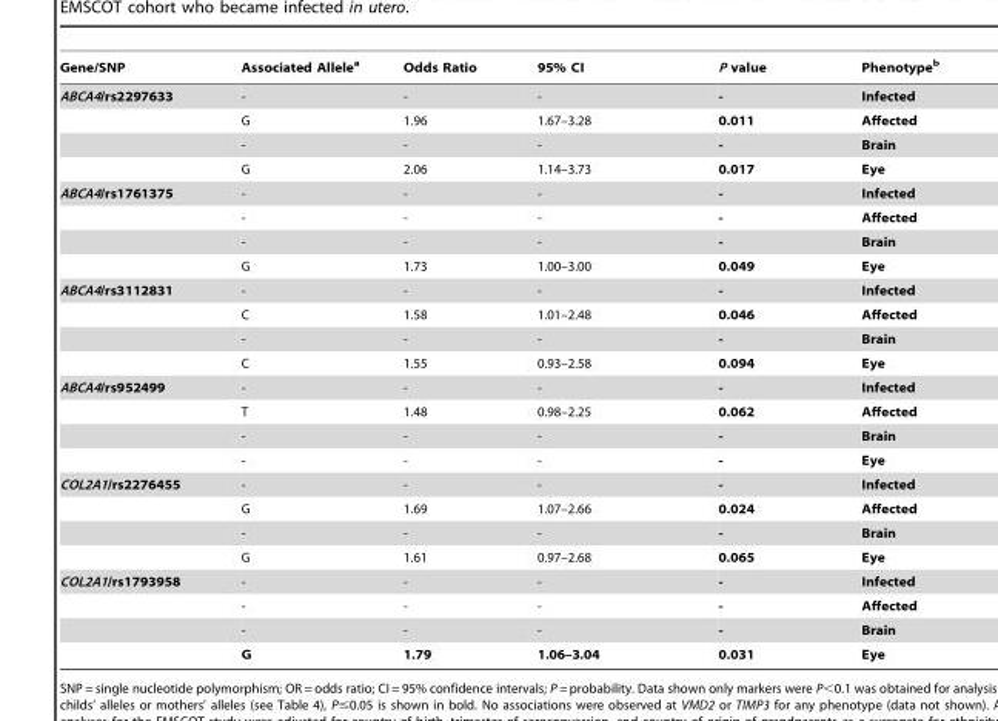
<table><thead><tr><td>Gene/SNP</td><td>Associated Allele<sup>a</sup></td><td>Odds Ratio</td><td>95% CI</td><td>P value</td><td>Phenotype<sup>b</sup></td></tr></thead><tbody><tr><td rowspan="4">ABCA4/rs2297633</td><td>-</td><td>-</td><td>-</td><td>-</td><td>Infected</td></tr><tr><td>G</td><td>1.96</td><td>1.67–3.28</td><td>0.011</td><td>Affected</td></tr><tr><td>-</td><td>-</td><td>-</td><td>-</td><td>Brain</td></tr><tr><td>G</td><td>2.06</td><td>1.14–3.73</td><td>0.017</td><td>Eye</td></tr><tr><td rowspan="4">ABCA4/rs1761375</td><td>-</td><td>-</td><td>-</td><td>-</td><td>Infected</td></tr><tr><td>-</td><td>-</td><td>-</td><td>-</td><td>Affected</td></tr><tr><td>-</td><td>-</td><td>-</td><td>-</td><td>Brain</td></tr><tr><td>G</td><td>1.73</td><td>1.00–3.00</td><td>0.049</td><td>Eye</td></tr><tr><td rowspan="4">ABCA4/rs3112831</td><td>-</td><td>-</td><td>-</td><td>-</td><td>Infected</td></tr><tr><td>C</td><td>1.58</td><td>1.01–2.48</td><td>0.046</td><td>Affected</td></tr><tr><td>-</td><td>-</td><td>-</td><td>-</td><td>Brain</td></tr><tr><td>C</td><td>1.55</td><td>0.93–2.58</td><td>0.094</td><td>Eye</td></tr><tr><td rowspan="4">ABCA4/rs952499</td><td>-</td><td>-</td><td>-</td><td>-</td><td>Infected</td></tr><tr><td>T</td><td>1.48</td><td>0.98–2.25</td><td>0.062</td><td>Affected</td></tr><tr><td>-</td><td>-</td><td>-</td><td>-</td><td>Brain</td></tr><tr><td>-</td><td>-</td><td>-</td><td>-</td><td>Eye</td></tr><tr><td rowspan="4">COL2A1/rs2276455</td><td>-</td><td>-</td><td>-</td><td>-</td><td>Infected</td></tr><tr><td>G</td><td>1.69</td><td>1.07–2.66</td><td>0.024</td><td>Affected</td></tr><tr><td>-</td><td>-</td><td>-</td><td>-</td><td>Brain</td></tr><tr><td>G</td><td>1.61</td><td>0.97–2.68</td><td>0.065</td><td>Eye</td></tr><tr><td rowspan="4">COL2A1/rs1793958</td><td>-</td><td>-</td><td>-</td><td>-</td><td>Infected</td></tr><tr><td>-</td><td>-</td><td>-</td><td>-</td><td>Affected</td></tr><tr><td>-</td><td>-</td><td>-</td><td>-</td><td>Brain</td></tr><tr><td>G</td><td>1.79</td><td>1.06–3.04</td><td>0.031</td><td>Eye</td></tr></tbody></table>